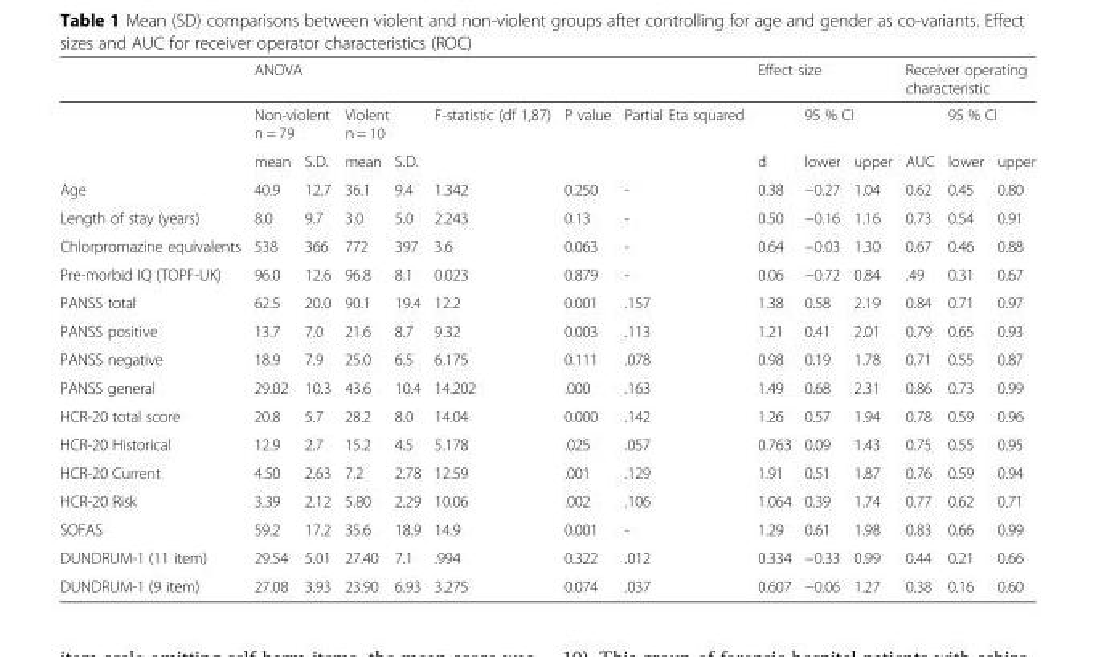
<table><thead><tr><td rowspan="3"></td><td colspan="7">ANOVA</td><td colspan="3">Effect size</td><td colspan="3">Receiver operating characteristic</td></tr><tr><td colspan="2">Non-violent n = 79</td><td colspan="2">Violent n = 10</td><td rowspan="2">F-statistic (df 1,87)</td><td rowspan="2">P value</td><td rowspan="2">Partial Eta squared</td><td rowspan="2">d</td><td colspan="2">95 % CI</td><td rowspan="2">AUC</td><td colspan="2">95 % CI</td></tr><tr><td>mean</td><td>S.D.</td><td>mean</td><td>S.D.</td><td>lower</td><td>upper</td><td>lower</td><td>upper</td></tr></thead><tbody><tr><td>Age</td><td>40.9</td><td>12.7</td><td>36.1</td><td>9.4</td><td>1.342</td><td>0.250</td><td>-</td><td>0.38</td><td>−0.27</td><td>1.04</td><td>0.62</td><td>0.45</td><td>0.80</td></tr><tr><td>Length of stay (years)</td><td>8.0</td><td>9.7</td><td>3.0</td><td>5.0</td><td>2.243</td><td>0.13</td><td>-</td><td>0.50</td><td>−0.16</td><td>1.16</td><td>0.73</td><td>0.54</td><td>0.91</td></tr><tr><td>Chlorpromazine equivalents</td><td>538</td><td>366</td><td>772</td><td>397</td><td>3.6</td><td>0.063</td><td>-</td><td>0.64</td><td>−0.03</td><td>1.30</td><td>0.67</td><td>0.46</td><td>0.88</td></tr><tr><td>Pre-morbid IQ (TOPF-UK)</td><td>96.0</td><td>12.6</td><td>96.8</td><td>8.1</td><td>0.023</td><td>0.879</td><td>-</td><td>0.06</td><td>−0.72</td><td>0.84</td><td>.49</td><td>0.31</td><td>0.67</td></tr><tr><td>PANSS total</td><td>62.5</td><td>20.0</td><td>90.1</td><td>19.4</td><td>12.2</td><td>0.001</td><td>.157</td><td>1.38</td><td>0.58</td><td>2.19</td><td>0.84</td><td>0.71</td><td>0.97</td></tr><tr><td>PANSS positive</td><td>13.7</td><td>7.0</td><td>21.6</td><td>8.7</td><td>9.32</td><td>0.003</td><td>.113</td><td>1.21</td><td>0.41</td><td>2.01</td><td>0.79</td><td>0.65</td><td>0.93</td></tr><tr><td>PANSS negative</td><td>18.9</td><td>7.9</td><td>25.0</td><td>6.5</td><td>6.175</td><td>0.111</td><td>.078</td><td>0.98</td><td>0.19</td><td>1.78</td><td>0.71</td><td>0.55</td><td>0.87</td></tr><tr><td>PANSS general</td><td>29.02</td><td>10.3</td><td>43.6</td><td>10.4</td><td>14.202</td><td>.000</td><td>.163</td><td>1.49</td><td>0.68</td><td>2.31</td><td>0.86</td><td>0.73</td><td>0.99</td></tr><tr><td>HCR-20 total score</td><td>20.8</td><td>5.7</td><td>28.2</td><td>8.0</td><td>14.04</td><td>0.000</td><td>.142</td><td>1.26</td><td>0.57</td><td>1.94</td><td>0.78</td><td>0.59</td><td>0.96</td></tr><tr><td>HCR-20 Historical</td><td>12.9</td><td>2.7</td><td>15.2</td><td>4.5</td><td>5.178</td><td>.025</td><td>.057</td><td>0.763</td><td>0.09</td><td>1.43</td><td>0.75</td><td>0.55</td><td>0.95</td></tr><tr><td>HCR-20 Current</td><td>4.50</td><td>2.63</td><td>7.2</td><td>2.78</td><td>12.59</td><td>.001</td><td>.129</td><td>1.91</td><td>0.51</td><td>1.87</td><td>0.76</td><td>0.59</td><td>0.94</td></tr><tr><td>HCR-20 Risk</td><td>3.39</td><td>2.12</td><td>5.80</td><td>2.29</td><td>10.06</td><td>.002</td><td>.106</td><td>1.064</td><td>0.39</td><td>1.74</td><td>0.77</td><td>0.62</td><td>0.71</td></tr><tr><td>SOFAS</td><td>59.2</td><td>17.2</td><td>35.6</td><td>18.9</td><td>14.9</td><td>0.001</td><td>-</td><td>1.29</td><td>0.61</td><td>1.98</td><td>0.83</td><td>0.66</td><td>0.99</td></tr><tr><td>DUNDRUM-1 (11 item)</td><td>29.54</td><td>5.01</td><td>27.40</td><td>7.1</td><td>.994</td><td>0.322</td><td>.012</td><td>0.334</td><td>−0.33</td><td>0.99</td><td>0.44</td><td>0.21</td><td>0.66</td></tr><tr><td>DUNDRUM-1 (9 item)</td><td>27.08</td><td>3.93</td><td>23.90</td><td>6.93</td><td>3.275</td><td>0.074</td><td>.037</td><td>0.607</td><td>−0.06</td><td>1.27</td><td>0.38</td><td>0.16</td><td>0.60</td></tr></tbody></table>